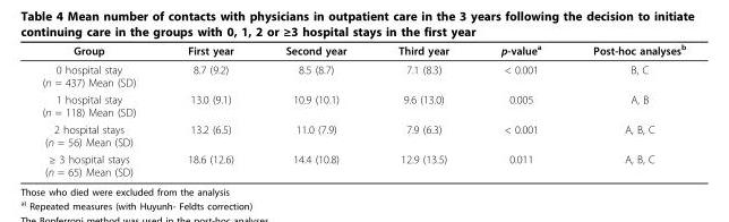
<table><thead><tr><td>Group</td><td>First year</td><td>Second year</td><td>Third year</td><td>p-value<sup>a</sup></td><td>Post-hoc analyses<sup>b</sup></td></tr></thead><tbody><tr><td>0 hospital stay (n = 437) Mean (SD)</td><td>8.7 (9.2)</td><td>8.5 (8.7)</td><td>7.1 (8.3)</td><td>&lt; 0.001</td><td>B, C</td></tr><tr><td>1 hospital stay (n = 118) Mean (SD)</td><td>13.0 (9.1)</td><td>10.9 (10.1)</td><td>9.6 (13.0)</td><td>0.005</td><td>A, B</td></tr><tr><td>2 hospital stays (n = 56) Mean (SD)</td><td>13.2 (6.5)</td><td>11.0 (7.9)</td><td>7.9 (6.3)</td><td>&lt; 0.001</td><td>A, B, C</td></tr><tr><td>≥ 3 hospital stays (n = 65) Mean (SD)</td><td>18.6 (12.6)</td><td>14.4 (10.8)</td><td>12.9 (13.5)</td><td>0.011</td><td>A, B, C</td></tr></tbody></table>